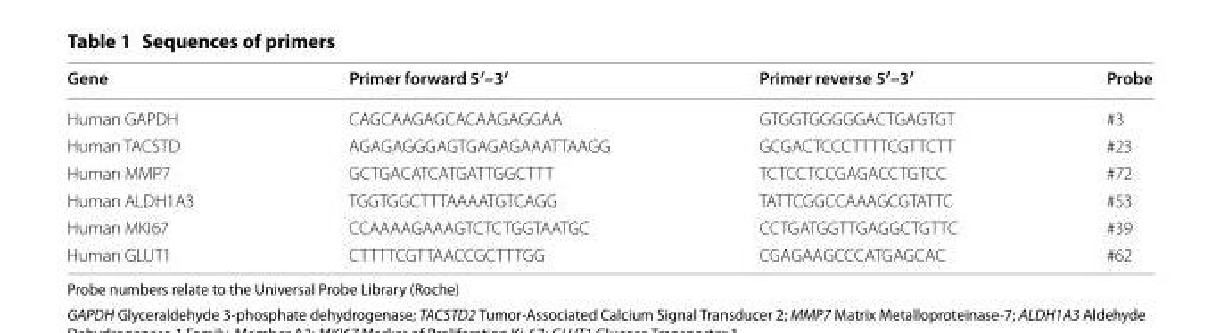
<table><thead><tr><td>Gene</td><td>Primer forward 5′–3′</td><td>Primer reverse 5′–3′</td><td>Probe</td></tr></thead><tbody><tr><td>Human GAPDH</td><td>CAGCAAGAGCACAAGAGGAA</td><td>GTGGTGGGGGACTGAGTGT</td><td>#3</td></tr><tr><td>Human TACSTD</td><td>AGAGAGGGAGTGAGAGAAATTAAGG</td><td>GCGACTCCCTTTTCGTTCTT</td><td>#23</td></tr><tr><td>Human MMP7</td><td>GCTGACATCATGATTGGCTTT</td><td>TCTCCTCCGAGACCTGTCC</td><td>#72</td></tr><tr><td>Human ALDH1A3</td><td>TGGTGGCTTTAAAATGTCAGG</td><td>TATTCGGCCAAAGCGTATTC</td><td>#53</td></tr><tr><td>Human MKI67</td><td>CCAAAAGAAAGTCTCTGGTAATGC</td><td>CCTGATGGTTGAGGCTGTTC</td><td>#39</td></tr><tr><td>Human GLUT1</td><td>CTTTTCGTTAACCGCTTTGG</td><td>CGAGAAGCCCATGAGCAC</td><td>#62</td></tr></tbody></table>